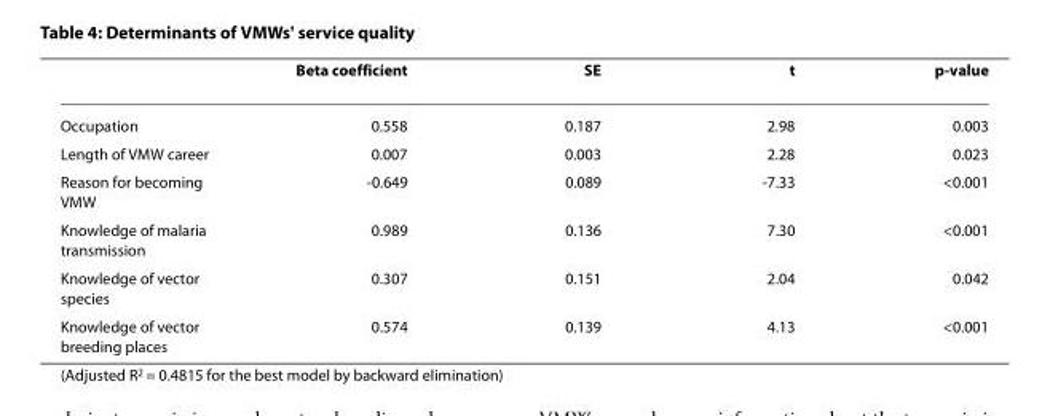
<table><thead><tr><td></td><td>Beta coefficient</td><td>SE</td><td>t</td><td>p-value</td></tr></thead><tbody><tr><td>Occupation</td><td>0.558</td><td>0.187</td><td>2.98</td><td>0.003</td></tr><tr><td>Length of VMW career</td><td>0.007</td><td>0.003</td><td>2.28</td><td>0.023</td></tr><tr><td>Reason for becoming VMW</td><td>-0.649</td><td>0.089</td><td>-7.33</td><td>&lt;0.001</td></tr><tr><td>Knowledge of malaria transmission</td><td>0.989</td><td>0.136</td><td>7.30</td><td>&lt;0.001</td></tr><tr><td>Knowledge of vector species</td><td>0.307</td><td>0.151</td><td>2.04</td><td>0.042</td></tr><tr><td>Knowledge of vector breeding places</td><td>0.574</td><td>0.139</td><td>4.13</td><td>&lt;0.001</td></tr></tbody></table>